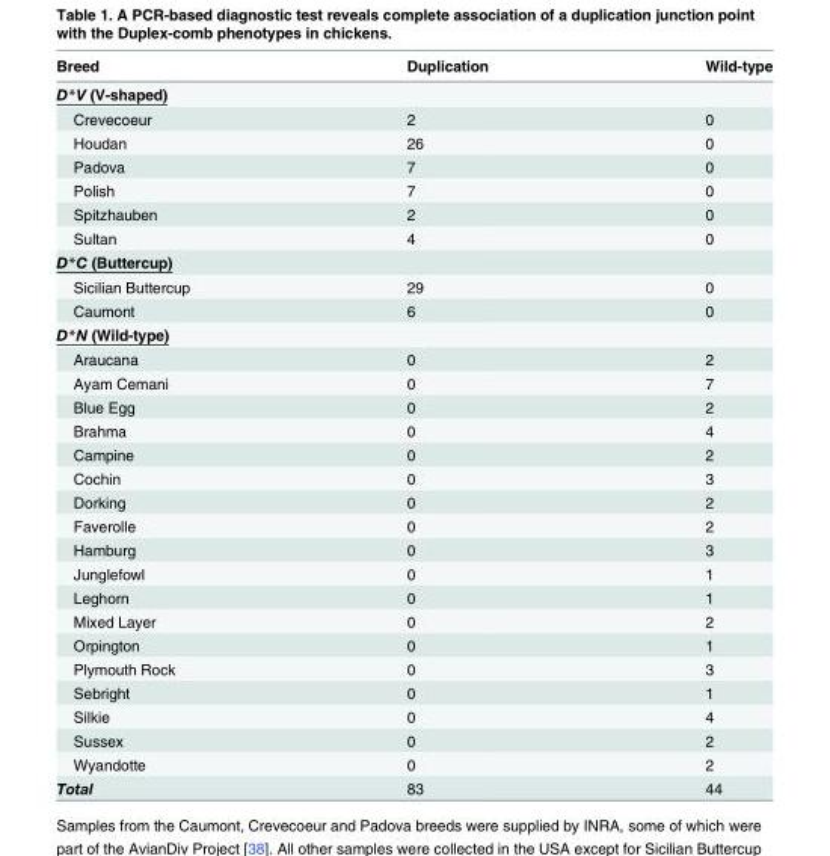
<table><thead><tr><td>Breed</td><td>Duplication</td><td>Wild-type</td></tr></thead><tbody><tr><td colspan="3">D*V (V-shaped)</td></tr><tr><td>Crevecoeur</td><td>2</td><td>0</td></tr><tr><td>Houdan</td><td>26</td><td>0</td></tr><tr><td>Padova</td><td>7</td><td>0</td></tr><tr><td>Polish</td><td>7</td><td>0</td></tr><tr><td>Spitzhauben</td><td>2</td><td>0</td></tr><tr><td>Sultan</td><td>4</td><td>0</td></tr><tr><td colspan="3">D*C (Buttercup)</td></tr><tr><td>Sicilian Buttercup</td><td>29</td><td>0</td></tr><tr><td>Caumont</td><td>6</td><td>0</td></tr><tr><td colspan="3">D*N (Wild-type)</td></tr><tr><td>Araucana</td><td>0</td><td>2</td></tr><tr><td>Ayam Cemani</td><td>0</td><td>7</td></tr><tr><td>Blue Egg</td><td>0</td><td>2</td></tr><tr><td>Brahma</td><td>0</td><td>4</td></tr><tr><td>Campine</td><td>0</td><td>2</td></tr><tr><td>Cochin</td><td>0</td><td>3</td></tr><tr><td>Dorking</td><td>0</td><td>2</td></tr><tr><td>Faverolle</td><td>0</td><td>2</td></tr><tr><td>Hamburg</td><td>0</td><td>3</td></tr><tr><td>Junglefowl</td><td>0</td><td>1</td></tr><tr><td>Leghorn</td><td>0</td><td>1</td></tr><tr><td>Mixed Layer</td><td>0</td><td>2</td></tr><tr><td>Orpington</td><td>0</td><td>1</td></tr><tr><td>Plymouth Rock</td><td>0</td><td>3</td></tr><tr><td>Sebright</td><td>0</td><td>1</td></tr><tr><td>Silkie</td><td>0</td><td>4</td></tr><tr><td>Sussex</td><td>0</td><td>2</td></tr><tr><td>Wyandotte</td><td>0</td><td>2</td></tr><tr><td>Total</td><td>83</td><td>44</td></tr></tbody></table>